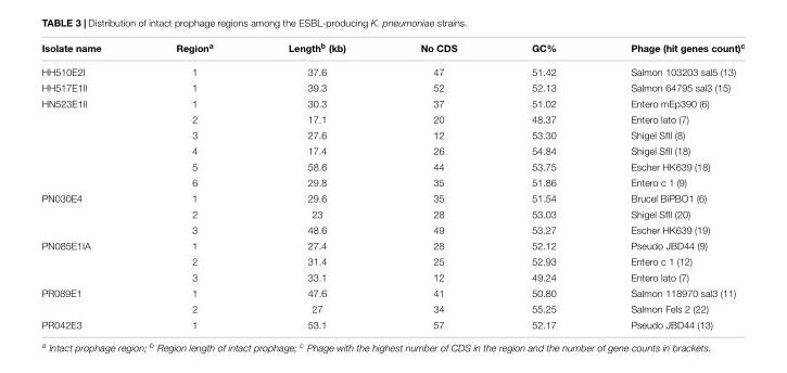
<table><thead><tr><td>Isolate name</td><td>Region<sup>a</sup></td><td>Length<sup>b</sup> (kb)</td><td>No CDS</td><td>GC%</td><td>Phage (hit genes count)<sup>c</sup></td></tr></thead><tbody><tr><td>HH510E2I</td><td>1</td><td>37.6</td><td>47</td><td>51.42</td><td>Salmon 103203 sal5 (13)</td></tr><tr><td>HH517E1II</td><td>1</td><td>39.3</td><td>52</td><td>52.13</td><td>Salmon 64795 sal3 (15)</td></tr><tr><td rowspan="6">HN523E1II</td><td>1</td><td>30.3</td><td>37</td><td>51.02</td><td>Entero mEp390 (6)</td></tr><tr><td>2</td><td>17.1</td><td>20</td><td>48.37</td><td>Entero lato (7)</td></tr><tr><td>3</td><td>27.6</td><td>12</td><td>53.30</td><td>Shigel SfII (8)</td></tr><tr><td>4</td><td>17.4</td><td>26</td><td>54.84</td><td>Shigel SfII (18)</td></tr><tr><td>5</td><td>58.6</td><td>44</td><td>53.75</td><td>Escher HK639 (18)</td></tr><tr><td>6</td><td>29.8</td><td>35</td><td>51.86</td><td>Entero c 1 (9)</td></tr><tr><td rowspan="3">PN030E4</td><td>1</td><td>29.6</td><td>35</td><td>51.54</td><td>Brucel BiPBO1 (6)</td></tr><tr><td>2</td><td>23</td><td>28</td><td>53.03</td><td>Shigel SfII (20)</td></tr><tr><td>3</td><td>48.6</td><td>49</td><td>53.27</td><td>Escher HK639 (19)</td></tr><tr><td rowspan="3">PN085E1IA</td><td>1</td><td>27.4</td><td>28</td><td>52.12</td><td>Pseudo JBD44 (9)</td></tr><tr><td>2</td><td>31.4</td><td>25</td><td>52.93</td><td>Entero c 1 (12)</td></tr><tr><td>3</td><td>33.1</td><td>12</td><td>49.24</td><td>Entero lato (7)</td></tr><tr><td rowspan="2">PR089E1</td><td>1</td><td>47.6</td><td>41</td><td>50.80</td><td>Salmon 118970 sal3 (11)</td></tr><tr><td>2</td><td>27</td><td>34</td><td>55.25</td><td>Salmon Fels 2 (22)</td></tr><tr><td>PR042E3</td><td>1</td><td>53.1</td><td>57</td><td>52.17</td><td>Pseudo JBD44 (13)</td></tr></tbody></table>